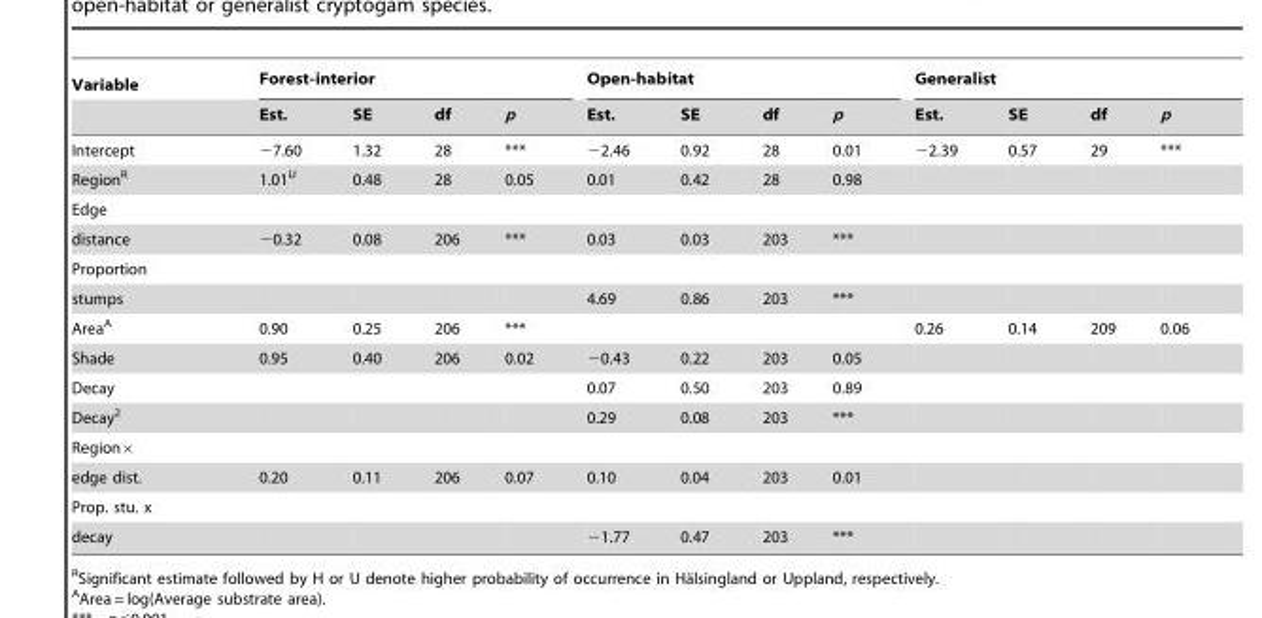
<table><thead><tr><td rowspan="2">Variable</td><td colspan="4">Forest-interior</td><td colspan="4">Open-habitat</td><td colspan="4">Generalist</td></tr><tr><td>Est.</td><td>SE</td><td>df</td><td>p</td><td>Est.</td><td>SE</td><td>df</td><td>p</td><td>Est.</td><td>SE</td><td>df</td><td>p</td></tr></thead><tbody><tr><td>Intercept</td><td>−7.60</td><td>1.32</td><td>28</td><td>***</td><td>−2.46</td><td>0.92</td><td>28</td><td>0.01</td><td>−2.39</td><td>0.57</td><td>29</td><td>***</td></tr><tr><td>Region<sup>R</sup></td><td>1.01<sup>U</sup></td><td>0.48</td><td>28</td><td>0.05</td><td>0.01</td><td>0.42</td><td>28</td><td>0.98</td><td></td><td></td><td></td><td></td></tr><tr><td colspan="13">Edge</td></tr><tr><td>distance</td><td>−0.32</td><td>0.08</td><td>206</td><td>***</td><td>0.03</td><td>0.03</td><td>203</td><td>***</td><td></td><td></td><td></td><td></td></tr><tr><td colspan="13">Proportion</td></tr><tr><td>stumps</td><td></td><td></td><td></td><td></td><td>4.69</td><td>0.86</td><td>203</td><td>***</td><td></td><td></td><td></td><td></td></tr><tr><td>Area<sup>A</sup></td><td>0.90</td><td>0.25</td><td>206</td><td>***</td><td></td><td></td><td></td><td></td><td>0.26</td><td>0.14</td><td>209</td><td>0.06</td></tr><tr><td>Shade</td><td>0.95</td><td>0.40</td><td>206</td><td>0.02</td><td>−0.43</td><td>0.22</td><td>203</td><td>0.05</td><td></td><td></td><td></td><td></td></tr><tr><td>Decay</td><td></td><td></td><td></td><td></td><td>0.07</td><td>0.50</td><td>203</td><td>0.89</td><td></td><td></td><td></td><td></td></tr><tr><td>Decay<sup>2</sup></td><td></td><td></td><td></td><td></td><td>0.29</td><td>0.08</td><td>203</td><td>***</td><td></td><td></td><td></td><td></td></tr><tr><td colspan="13">Region×</td></tr><tr><td>edge dist.</td><td>0.20</td><td>0.11</td><td>206</td><td>0.07</td><td>0.10</td><td>0.04</td><td>203</td><td>0.01</td><td></td><td></td><td></td><td></td></tr><tr><td colspan="13">Prop. stu. x</td></tr><tr><td>decay</td><td></td><td></td><td></td><td></td><td>−1.77</td><td>0.47</td><td>203</td><td>***</td><td></td><td></td><td></td><td></td></tr></tbody></table>